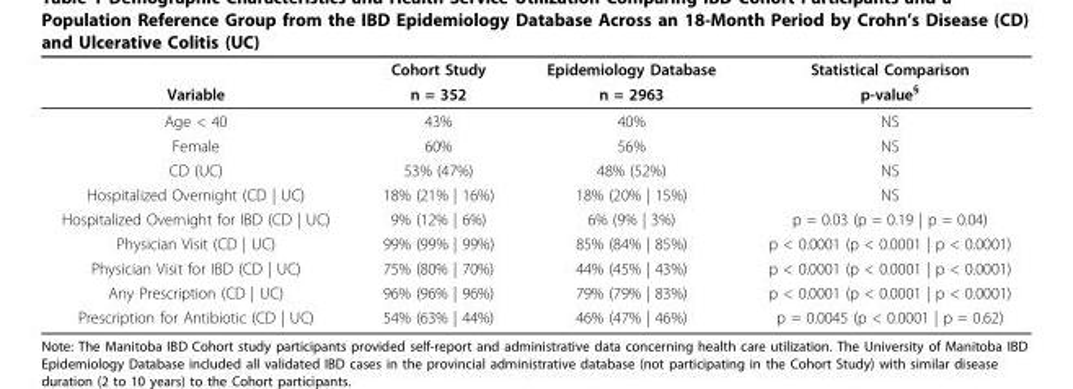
<table><thead><tr><td rowspan="2">Variable</td><td rowspan="2">Cohort Study n = 352</td><td rowspan="2">Epidemiology Database n = 2963</td><td rowspan="2">Statistical Comparison p-value<sup>§</sup></td></tr><tr></tr></thead><tbody><tr><td>Age &lt; 40</td><td>43%</td><td>40%</td><td>NS</td></tr><tr><td>Female</td><td>60%</td><td>56%</td><td>NS</td></tr><tr><td>CD (UC)</td><td>53% (47%)</td><td>48% (52%)</td><td>NS</td></tr><tr><td>Hospitalized Overnight (CD | UC)</td><td>18% (21% | 16%)</td><td>18% (20% | 15%)</td><td>NS</td></tr><tr><td>Hospitalized Overnight for IBD (CD | UC)</td><td>9% (12% | 6%)</td><td>6% (9% | 3%)</td><td>p = 0.03 (p = 0.19 | p = 0.04)</td></tr><tr><td>Physician Visit (CD | UC)</td><td>99% (99% | 99%)</td><td>85% (84% | 85%)</td><td>p &lt; 0.0001 (p &lt; 0.0001 | p &lt; 0.0001)</td></tr><tr><td>Physician Visit for IBD (CD | UC)</td><td>75% (80% | 70%)</td><td>44% (45% | 43%)</td><td>p &lt; 0.0001 (p &lt; 0.0001 | p &lt; 0.0001)</td></tr><tr><td>Any Prescription (CD | UC)</td><td>96% (96% | 96%)</td><td>79% (79% | 83%)</td><td>p &lt; 0.0001 (p &lt; 0.0001 | p &lt; 0.0001)</td></tr><tr><td>Prescription for Antibiotic (CD | UC)</td><td>54% (63% | 44%)</td><td>46% (47% | 46%)</td><td>p = 0.0045 (p &lt; 0.0001 | p = 0.62)</td></tr></tbody></table>